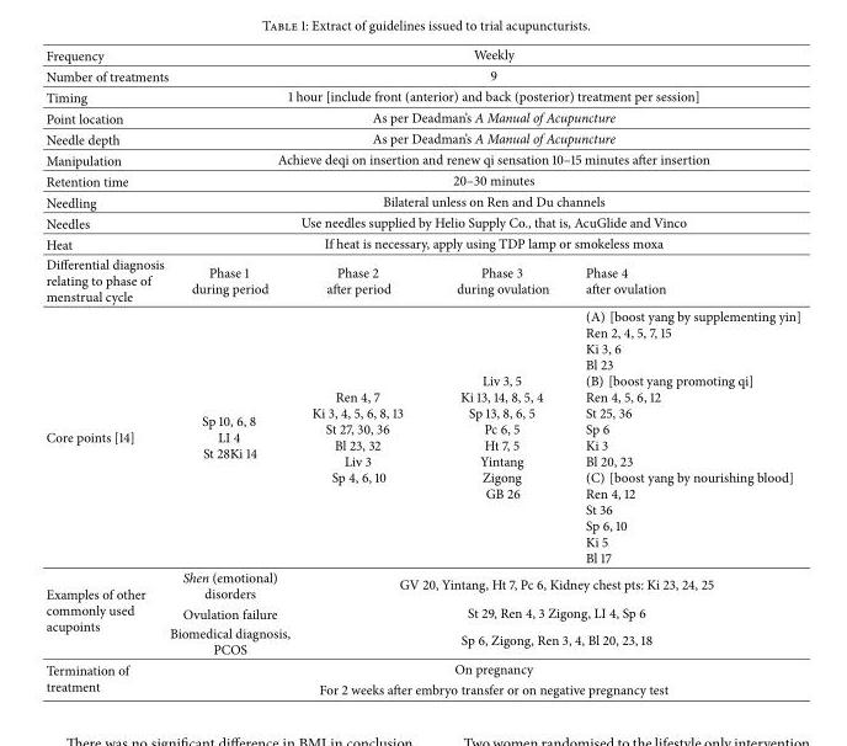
<table><tbody><tr><td>Frequency</td><td colspan="4">Weekly</td></tr><tr><td>Number of treatments</td><td colspan="4">9</td></tr><tr><td>Timing</td><td colspan="4">1 hour [include front (anterior) and back (posterior) treatment per session]</td></tr><tr><td>Point location</td><td colspan="4">As per Deadman’s A Manual of Acupuncture</td></tr><tr><td>Needle depth</td><td colspan="4">As per Deadman’s A Manual of Acupuncture</td></tr><tr><td>Manipulation</td><td colspan="4">Achieve deqi on insertion and renew qi sensation 10–15 minutes after insertion</td></tr><tr><td>Retention time</td><td colspan="4">20–30 minutes</td></tr><tr><td>Needling</td><td colspan="4">Bilateral unless on Ren and Du channels</td></tr><tr><td>Needles</td><td colspan="4">Use needles supplied by Helio Supply Co., that is, AcuGlide and Vinco</td></tr><tr><td>Heat</td><td colspan="4">If heat is necessary, apply using TDP lamp or smokeless moxa</td></tr><tr><td>Differential diagnosis relating to phase of menstrual cycle</td><td>Phase 1 during period</td><td>Phase 2 after period</td><td>Phase 3 during ovulation</td><td>Phase 4 after ovulation</td></tr><tr><td>Core points [14]</td><td>Sp 10, 6, 8 LI 4 St 28Ki 14</td><td>Ren 4, 7 Ki 3, 4, 5, 6, 8, 13 St 27, 30, 36 Bl 23, 32 Liv 3 Sp 4, 6, 10</td><td>Liv 3, 5 Ki 13, 14, 8, 5, 4 Sp 13, 8, 6, 5 Pc 6, 5 Ht 7, 5 Yintang Zigong GB 26</td><td>(A) [boost yang by supplementing yin] Ren 2, 4, 5, 7, 15 Ki 3, 6 Bl 23 (B) [boost yang promoting qi] Ren 4, 5, 6, 12 St 25, 36 Sp 6 Ki 3 Bl 20, 23 (C) [boost yang by nourishing blood] Ren 4, 12 St 36 Sp 6, 10 Ki 5 Bl 17</td></tr><tr><td rowspan="3">Examples of other commonly used acupoints</td><td>Shen (emotional) disorders</td><td colspan="3">GV 20, Yintang, Ht 7, Pc 6, Kidney chest pts: Ki 23, 24, 25</td></tr><tr><td>Ovulation failure</td><td colspan="3">St 29, Ren 4, 3 Zigong, LI 4, Sp 6</td></tr><tr><td>Biomedical diagnosis, PCOS</td><td colspan="3">Sp 6, Zigong, Ren 3, 4, Bl 20, 23, 18</td></tr><tr><td rowspan="2">Termination of treatment</td><td colspan="4">On pregnancy</td></tr><tr><td colspan="4">For 2 weeks after embryo transfer or on negative pregnancy test</td></tr></tbody></table>